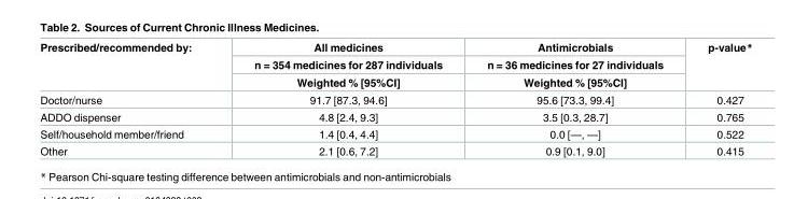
<table><thead><tr><td rowspan="3">Prescribed/recommended by:</td><td rowspan="3">All medicines n = 354 medicines for 287 individuals Weighted % [95%CI]</td><td rowspan="3">Antimicrobials n = 36 medicines for 27 individuals Weighted % [95%CI]</td><td rowspan="3">p-value*</td></tr><tr></tr><tr></tr></thead><tbody><tr><td>Doctor/nurse</td><td>91.7 [87.3, 94.6]</td><td>95.6 [73.3, 99.4]</td><td>0.427</td></tr><tr><td>ADDO dispenser</td><td>4.8 [2.4, 9.3]</td><td>3.5 [0.3, 28.7]</td><td>0.765</td></tr><tr><td>Self/household member/friend</td><td>1.4 [0.4, 4.4]</td><td>0.0 [—, —]</td><td>0.522</td></tr><tr><td>Other</td><td>2.1 [0.6, 7.2]</td><td>0.9 [0.1, 9.0]</td><td>0.415</td></tr></tbody></table>